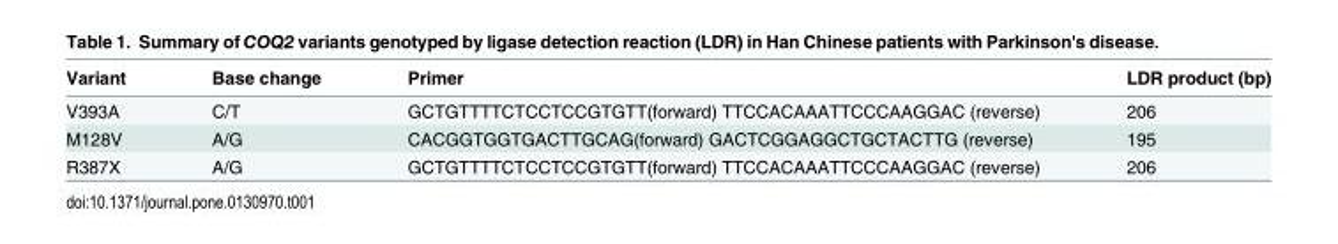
<table><thead><tr><td>Variant</td><td>Base change</td><td>Primer</td><td>LDR product (bp)</td></tr></thead><tbody><tr><td>V393A</td><td>C/T</td><td>GCTGTTTTCTCCTCCGTGTT(forward) TTCCACAAATTCCCAAGGAC (reverse)</td><td>206</td></tr><tr><td>M128V</td><td>A/G</td><td>CACGGTGGTGACTTGCAG(forward) GACTCGGAGGCTGCTACTTG (reverse)</td><td>195</td></tr><tr><td>R387X</td><td>A/G</td><td>GCTGTTTTCTCCTCCGTGTT(forward) TTCCACAAATTCCCAAGGAC (reverse)</td><td>206</td></tr></tbody></table>